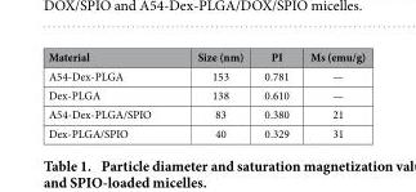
<table><thead><tr><td>Material</td><td>Size (nm)</td><td>PI</td><td>Ms (emu/g)</td></tr></thead><tbody><tr><td>A54-Dex-PLGA</td><td>153</td><td>0.781</td><td>—</td></tr><tr><td>Dex-PLGA</td><td>138</td><td>0.610</td><td>—</td></tr><tr><td>A54-Dex-PLGA/SPIO</td><td>83</td><td>0.380</td><td>21</td></tr><tr><td>Dex-PLGA/SPIO</td><td>40</td><td>0.329</td><td>31</td></tr></tbody></table>